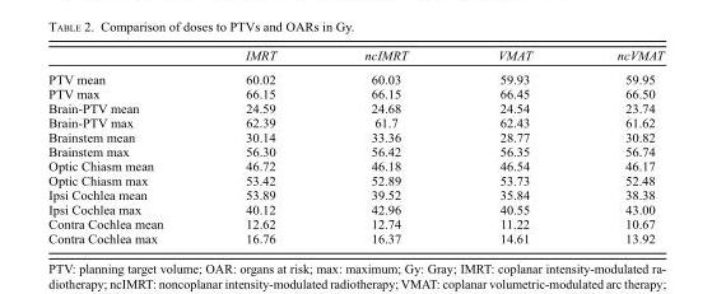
<table><thead><tr><td></td><td>IMRT</td><td>ncIMRT</td><td>VMAT</td><td>ncVMAT</td></tr></thead><tbody><tr><td>PTV mean</td><td>60.02</td><td>60.03</td><td>59.93</td><td>59.95</td></tr><tr><td>PTV max</td><td>66.15</td><td>66.15</td><td>66.45</td><td>66.50</td></tr><tr><td>BrainPTV mean</td><td>24.59</td><td>24.68</td><td>24.54</td><td>23.74</td></tr><tr><td>BrainPTV max</td><td>62.39</td><td>61.7</td><td>62.43</td><td>61.62</td></tr><tr><td>Brainstem mean</td><td>30.14</td><td>33.36</td><td>28.77</td><td>30.82</td></tr><tr><td>Brainstem max</td><td>56.30</td><td>56.42</td><td>56.35</td><td>56.74</td></tr><tr><td>Optic Chiasm mean</td><td>46.72</td><td>46.18</td><td>46.54</td><td>46.17</td></tr><tr><td>Optic Chiasm max</td><td>53.42</td><td>52.89</td><td>53.73</td><td>52.48</td></tr><tr><td>Ipsi Cochlea mean</td><td>53.89</td><td>39.52</td><td>35.84</td><td>38.38</td></tr><tr><td>Ipsi Cochlea max</td><td>40.12</td><td>42.96</td><td>40.55</td><td>43.00</td></tr><tr><td>Contra Cochlea mean</td><td>12.62</td><td>12.74</td><td>11.22</td><td>10.67</td></tr><tr><td>Contra Cochlea max</td><td>16.76</td><td>16.37</td><td>14.61</td><td>13.92</td></tr></tbody></table>